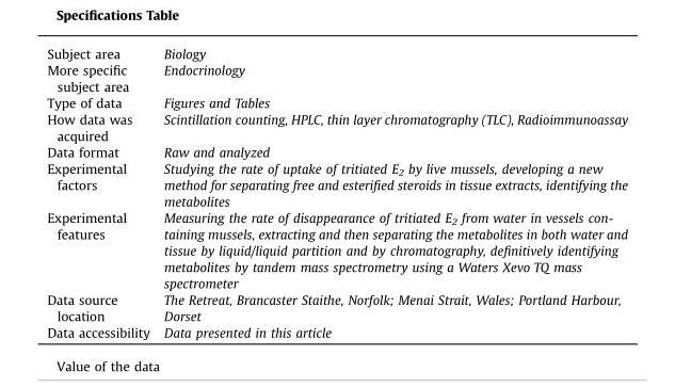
<table><tbody><tr><td>Subject area</td><td>Biology</td></tr><tr><td>More specific subject area</td><td>Endocrinology</td></tr><tr><td>Type of data</td><td>Figures and Tables</td></tr><tr><td>How data was acquired</td><td>Scintillation counting, HPLC, thin layer chromatography (TLC), Radioimmunoassay</td></tr><tr><td>Data format</td><td>Raw and analyzed</td></tr><tr><td>Experimental factors</td><td>Studying the rate of uptake of tritiated E<sub>2</sub> by live mussels, developing a new method for separating free and esterified steroids in tissue extracts, identifying the metabolites</td></tr><tr><td>Experimental features</td><td>Measuring the rate of disappearance of tritiated E2 from water in vessels con- taining mussels, extracting and then separating the metabolites in both water and tissue by liquid/liquid partition and by chromatography, definitively identifying metabolites by tandem mass spectrometry using a Waters Xevo TQ mass spectrometer</td></tr><tr><td>Data source location</td><td>The Retreat, Brancaster Staithe, Norfolk; Menai Strait, Wales; Portland Harbour, Dorset</td></tr><tr><td>Data accessibility</td><td>Data presented in this article</td></tr></tbody></table>